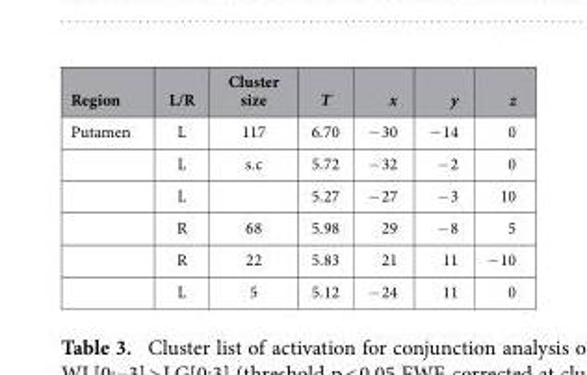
<table><thead><tr><td>Region</td><td>L/R</td><td>Cluster size</td><td>T</td><td>x</td><td>y</td><td>z</td></tr></thead><tbody><tr><td rowspan="6">Putamen</td><td>L</td><td>117</td><td>6.70</td><td>− 30</td><td>− 14</td><td>0</td></tr><tr><td>L</td><td>s.c</td><td>5.72</td><td>− 32</td><td>− 2</td><td>0</td></tr><tr><td>L</td><td></td><td>5.27</td><td>− 27</td><td>− 3</td><td>10</td></tr><tr><td>R</td><td>68</td><td>5.98</td><td>29</td><td>− 8</td><td>5</td></tr><tr><td>R</td><td>22</td><td>5.83</td><td>21</td><td>11</td><td>− 10</td></tr><tr><td>L</td><td>5</td><td>5.12</td><td>− 24</td><td>11</td><td>0</td></tr></tbody></table>